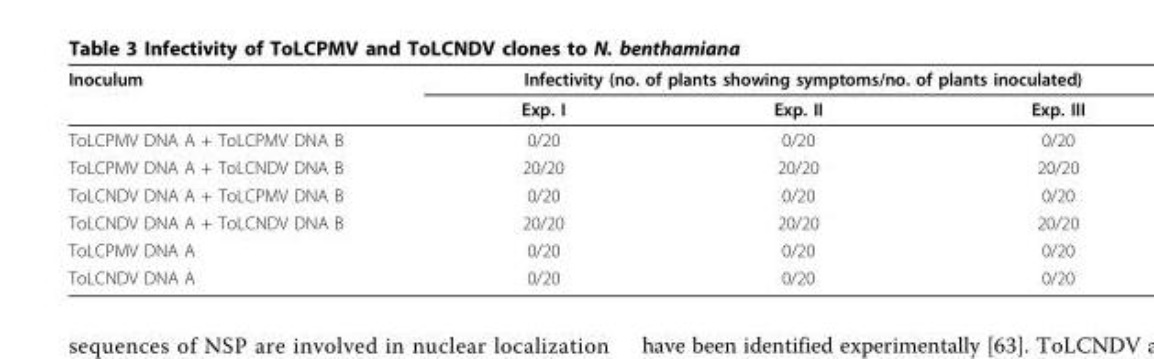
<table><thead><tr><td rowspan="2">Inoculum</td><td colspan="3">Infectivity (no. of plants showing symptoms/no. of plants inoculated)</td></tr><tr><td>Exp. I</td><td>Exp. II</td><td>Exp. III</td></tr></thead><tbody><tr><td>ToLCPMV DNA A + ToLCPMV DNA B</td><td>0/20</td><td>0/20</td><td>0/20</td></tr><tr><td>ToLCPMV DNA A + ToLCNDV DNA B</td><td>20/20</td><td>20/20</td><td>20/20</td></tr><tr><td>ToLCNDV DNA A + ToLCPMV DNA B</td><td>0/20</td><td>0/20</td><td>0/20</td></tr><tr><td>ToLCNDV DNA A + ToLCNDV DNA B</td><td>20/20</td><td>20/20</td><td>20/20</td></tr><tr><td>ToLCPMV DNA A</td><td>0/20</td><td>0/20</td><td>0/20</td></tr><tr><td>ToLCNDV DNA A</td><td>0/20</td><td>0/20</td><td>0/20</td></tr></tbody></table>